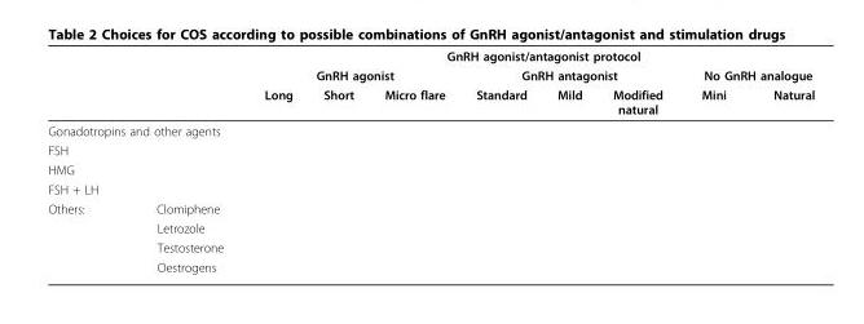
<table><thead><tr><td rowspan="3"></td><td colspan="8">GnRH agonist/antagonist protocol</td></tr><tr><td colspan="3">GnRH agonist</td><td colspan="3">GnRH antagonist</td><td colspan="2">No GnRH analogue</td></tr><tr><td>Long</td><td>Short</td><td>Micro flare</td><td>Standard</td><td>Mild</td><td>Modified natural</td><td>Mini</td><td>Natural</td></tr></thead><tbody><tr><td colspan="9">Gonadotropins and other agents</td></tr><tr><td colspan="9">FSH</td></tr><tr><td colspan="9">HMG</td></tr><tr><td colspan="9">FSH + LH</td></tr><tr><td colspan="9">Others: Clomiphene</td></tr><tr><td colspan="9">Letrozole</td></tr><tr><td colspan="9">Testosterone</td></tr><tr><td>Oestrogens</td><td colspan="3"></td><td colspan="3"></td><td colspan="2"></td></tr></tbody></table>